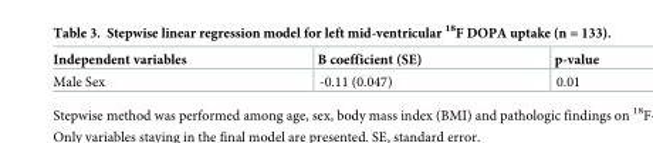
<table><thead><tr><td>Independent variables</td><td>B coefficient (SE)</td><td>p-value</td></tr></thead><tbody><tr><td>Male Sex</td><td>-0.11 (0.047)</td><td>0.01</td></tr></tbody></table>